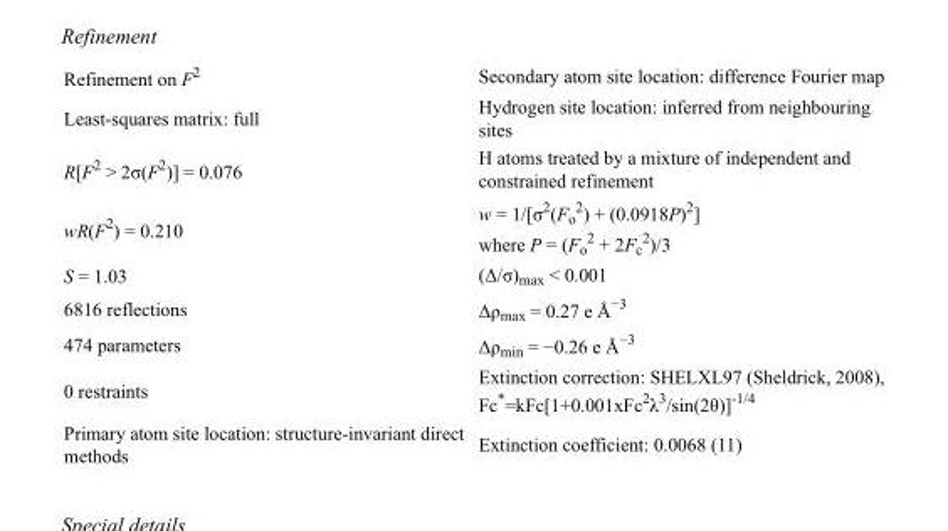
<table><tbody><tr><td>Refinement on F<sup>2</sup></td><td>Secondary atom site location: difference Fourier map</td></tr><tr><td>Least-squares matrix: full</td><td>Hydrogen site location: inferred from neighbouring sites</td></tr><tr><td>R[F<sup>2</sup> &gt; 2σ(F<sup>2</sup>)] = 0.076</td><td>H atoms treated by a mixture of independent and constrained refinement</td></tr><tr><td>wR(F<sup>2</sup>) = 0.210</td><td>w = 1/[σ<sup>2</sup>(F<sub>o</sub> <sup>2</sup>) + (0.0918P)<sup>2</sup>] where P = (F<sub>o</sub> <sup>2</sup> + 2F<sub>c</sub> <sup>2</sup>)/3</td></tr><tr><td>S = 1.03</td><td>(Δ/σ)<sub>max</sub> &lt; 0.001</td></tr><tr><td>6816 reflections</td><td>Δρ<sub>max</sub> = 0.27 e Å<sup>−3</sup></td></tr><tr><td>474 parameters</td><td>Δρ<sub>min</sub> = −0.26 e Å<sup>−3</sup></td></tr><tr><td>0 restraints</td><td>Extinction correction: SHELXL97 (Sheldrick, 2008), Fc*=kFc[1+0.001xFc<sup>2</sup>λ<sup>3</sup>/sin(2θ)]<sup>-1/4</sup></td></tr><tr><td>Primary atom site location: structure-invariant direct methods</td><td>Extinction coefficient: 0.0068 (11)</td></tr></tbody></table>